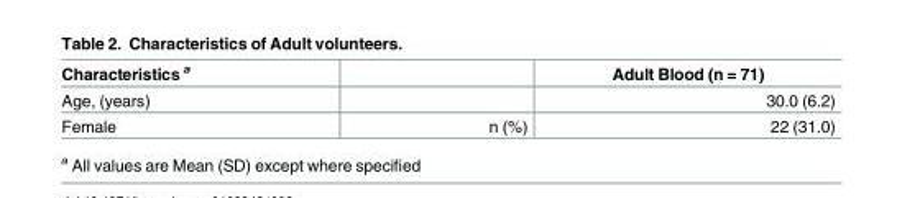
<table><thead><tr><td>Characteristics <sup>a</sup></td><td></td><td>Adult Blood (n = 71)</td></tr></thead><tbody><tr><td>Age, (years)</td><td></td><td>30.0 (6.2)</td></tr><tr><td>Female</td><td>n (%)</td><td>22 (31.0)</td></tr></tbody></table>